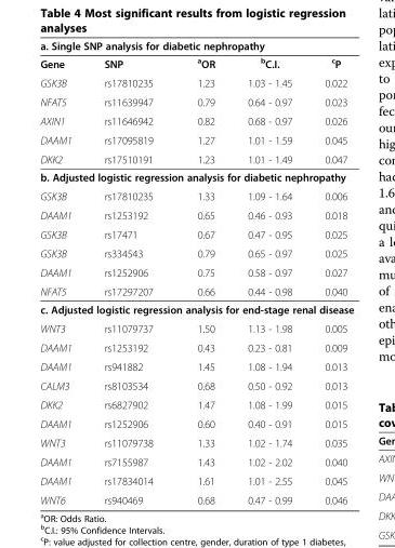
<table><thead><tr><td colspan="5">a. Single SNP analysis for diabetic nephropathy</td></tr><tr><td>Gene</td><td>SNP</td><td><sup>a</sup>OR</td><td><sup>b</sup>C.I.</td><td><sup>c</sup>P</td></tr></thead><tbody><tr><td>GSK3B</td><td>rs17810235</td><td>1.23</td><td>1.03 - 1.45</td><td>0.022</td></tr><tr><td>NFAT5</td><td>rs11639947</td><td>0.79</td><td>0.64 - 0.97</td><td>0.023</td></tr><tr><td>AXIN1</td><td>rs11646942</td><td>0.82</td><td>0.68 - 0.97</td><td>0.026</td></tr><tr><td>DAAM1</td><td>rs17095819</td><td>1.27</td><td>1.01 - 1.59</td><td>0.045</td></tr><tr><td>DKK2</td><td>rs17510191</td><td>1.23</td><td>1.01 - 1.49</td><td>0.047</td></tr><tr><td colspan="5">b. Adjusted logistic regression analysis for diabetic nephropathy</td></tr><tr><td>GSK3B</td><td>rs17810235</td><td>1.33</td><td>1.09 - 1.64</td><td>0.006</td></tr><tr><td>DAAM1</td><td>rs1253192</td><td>0.65</td><td>0.46 - 0.93</td><td>0.018</td></tr><tr><td>GSK3B</td><td>rs17471</td><td>0.67</td><td>0.47 - 0.95</td><td>0.025</td></tr><tr><td>GSK3B</td><td>rs334543</td><td>0.79</td><td>0.65 - 0.97</td><td>0.025</td></tr><tr><td>DAAM1</td><td>rs1252906</td><td>0.75</td><td>0.58 - 0.97</td><td>0.027</td></tr><tr><td>NFAT5</td><td>rs17297207</td><td>0.66</td><td>0.44 - 0.98</td><td>0.040</td></tr><tr><td colspan="5">c. Adjusted logistic regression analysis for end-stage renal disease</td></tr><tr><td>WNT3</td><td>rs11079737</td><td>1.50</td><td>1.13 - 1.98</td><td>0.005</td></tr><tr><td>DAAM1</td><td>rs1253192</td><td>0.43</td><td>0.23 - 0.81</td><td>0.009</td></tr><tr><td>DAAM1</td><td>rs941882</td><td>1.45</td><td>1.08 - 1.94</td><td>0.013</td></tr><tr><td>CALM3</td><td>rs8103534</td><td>0.68</td><td>0.50 - 0.92</td><td>0.013</td></tr><tr><td>DKK2</td><td>rs6827902</td><td>1.47</td><td>1.08 - 1.99</td><td>0.015</td></tr><tr><td>DAAM1</td><td>rs1252906</td><td>0.60</td><td>0.40 - 0.91</td><td>0.015</td></tr><tr><td>WNT3</td><td>rs11079738</td><td>1.33</td><td>1.02 - 1.74</td><td>0.035</td></tr><tr><td>DAAM1</td><td>rs7155987</td><td>1.43</td><td>1.02 - 2.02</td><td>0.040</td></tr><tr><td>DAAM1</td><td>rs17834014</td><td>1.61</td><td>1.01 - 2.55</td><td>0.045</td></tr><tr><td>WNT6</td><td>rs940469</td><td>0.68</td><td>0.47 - 0.99</td><td>0.046</td></tr></tbody></table>